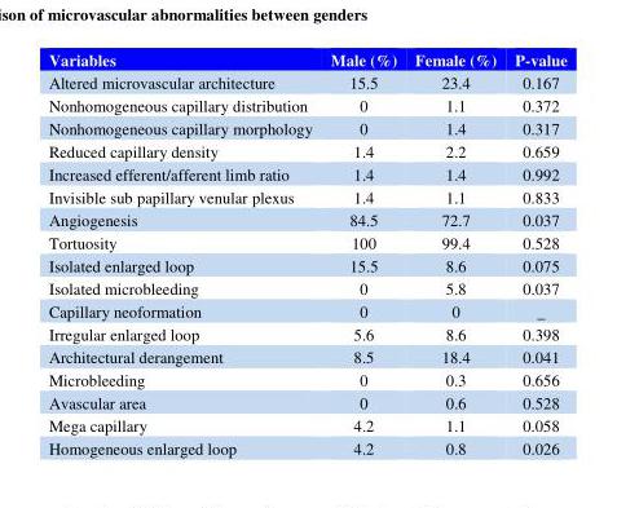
<table><thead><tr><td>Variables</td><td>Male (%)</td><td>Female (%)</td><td>P-value</td></tr></thead><tbody><tr><td>Altered microvascular architecture</td><td>15.5</td><td>23.4</td><td>0.167</td></tr><tr><td>Nonhomogeneous capillary distribution</td><td>0</td><td>1.1</td><td>0.372</td></tr><tr><td>Nonhomogeneous capillary morphology</td><td>0</td><td>1.4</td><td>0.317</td></tr><tr><td>Reduced capillary density</td><td>1.4</td><td>2.2</td><td>0.659</td></tr><tr><td>Increased efferent/afferent limb ratio</td><td>1.4</td><td>1.4</td><td>0.992</td></tr><tr><td>Invisible sub papillary venular plexus</td><td>1.4</td><td>1.1</td><td>0.833</td></tr><tr><td>Angiogenesis</td><td>84.5</td><td>72.7</td><td>0.037</td></tr><tr><td>Tortuosity</td><td>100</td><td>99.4</td><td>0.528</td></tr><tr><td>Isolated enlarged loop</td><td>15.5</td><td>8.6</td><td>0.075</td></tr><tr><td>Isolated microbleeding</td><td>0</td><td>5.8</td><td>0.037</td></tr><tr><td>Capillary neoformation</td><td>0</td><td>0</td><td>_</td></tr><tr><td>Irregular enlarged loop</td><td>5.6</td><td>8.6</td><td>0.398</td></tr><tr><td>Architectural derangement</td><td>8.5</td><td>18.4</td><td>0.041</td></tr><tr><td>Microbleeding</td><td>0</td><td>0.3</td><td>0.656</td></tr><tr><td>Avascular area</td><td>0</td><td>0.6</td><td>0.528</td></tr><tr><td>Mega capillary</td><td>4.2</td><td>1.1</td><td>0.058</td></tr><tr><td>Homogeneous enlarged loop</td><td>4.2</td><td>0.8</td><td>0.026</td></tr></tbody></table>